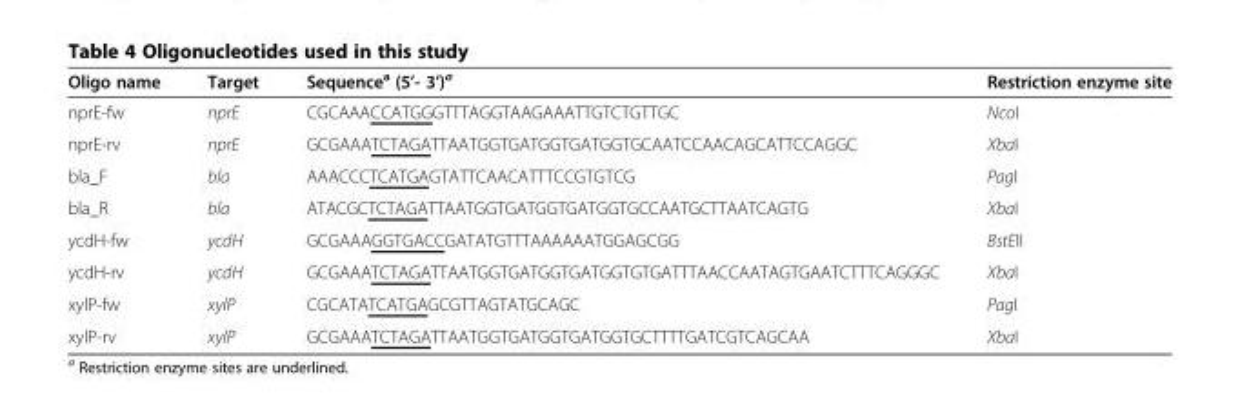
<table><thead><tr><td>Oligo name</td><td>Target</td><td>Sequence<sup>a</sup> (5’- 3’)<sup>a</sup></td><td>Restriction enzyme site</td></tr></thead><tbody><tr><td>nprE-fw</td><td>nprE</td><td>CGCAAACCATGGGTTTAGGTAAGAAATTGTCTGTTGC</td><td>NcoI</td></tr><tr><td>nprE-rv</td><td>nprE</td><td>GCGAAATCTAGATTAATGGTGATGGTGATGGTGCAATCCAACAGCATTCCAGGC</td><td>XbaI</td></tr><tr><td>bla_F</td><td>bla</td><td>AAACCCTCATGAGTATTCAACATTTCCGTGTCG</td><td>PagI</td></tr><tr><td>bla_R</td><td>bla</td><td>ATACGCTCTAGATTAATGGTGATGGTGATGGTGCCAATGCTTAATCAGTG</td><td>XbaI</td></tr><tr><td>ycdH-fw</td><td>ycdH</td><td>GCGAAAGGTGACCGATATGTTTAAAAAATGGAGCGG</td><td>BstEII</td></tr><tr><td>ycdH-rv</td><td>ycdH</td><td>GCGAAATCTAGATTAATGGTGATGGTGATGGTGTGATTTAACCAATAGTGAATCTTTCAGGGC</td><td>XbaI</td></tr><tr><td>xylP-fw</td><td>xylP</td><td>CGCATATCATGAGCGTTAGTATGCAGC</td><td>PagI</td></tr><tr><td>xylP-rv</td><td>xylP</td><td>GCGAAATCTAGATTAATGGTGATGGTGATGGTGCTTTTGATCGTCAGCAA</td><td>XbaI</td></tr></tbody></table>